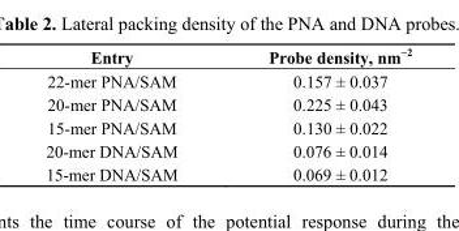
<table><thead><tr><td>Entry</td><td>Probe density, nm<sup>−2</sup></td></tr></thead><tbody><tr><td>22-mer PNA/SAM</td><td>0.157 ± 0.037</td></tr><tr><td>20-mer PNA/SAM</td><td>0.225 ± 0.043</td></tr><tr><td>15-mer PNA/SAM</td><td>0.130 ± 0.022</td></tr><tr><td>20-mer DNA/SAM</td><td>0.076 ± 0.014</td></tr><tr><td>15-mer DNA/SAM</td><td>0.069 ± 0.012</td></tr></tbody></table>